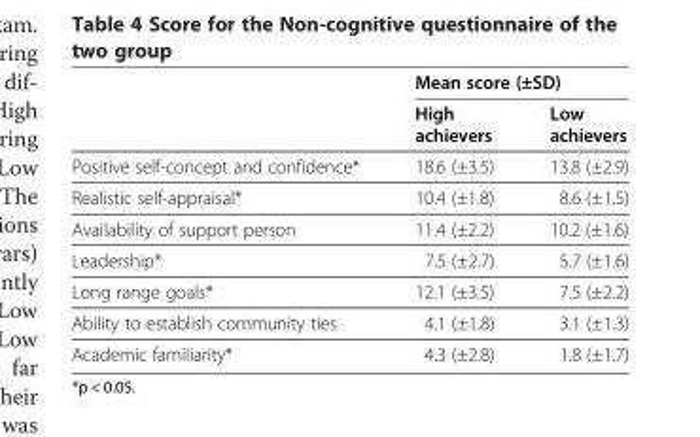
<table><thead><tr><td rowspan="2"></td><td colspan="2">Mean score (±SD)</td></tr><tr><td>High achievers</td><td>Low achievers</td></tr></thead><tbody><tr><td>Positive self-concept and confidence*</td><td>18.6 (±3.5)</td><td>13.8 (±2.9)</td></tr><tr><td>Realistic self-appraisal*</td><td>10.4 (±1.8)</td><td>8.6 (±1.5)</td></tr><tr><td>Availability of support person</td><td>11.4 (±2.2)</td><td>10.2 (±1.6)</td></tr><tr><td>Leadership*</td><td>7.5 (±2.7)</td><td>5.7 (±1.6)</td></tr><tr><td>Long range goals*</td><td>12.1 (±3.5)</td><td>7.5 (±2.2)</td></tr><tr><td>Ability to establish community ties</td><td>4.1 (±1.8)</td><td>3.1 (±1.3)</td></tr><tr><td>Academic familiarity*</td><td>4.3 (±2.8)</td><td>1.8 (±1.7)</td></tr></tbody></table>